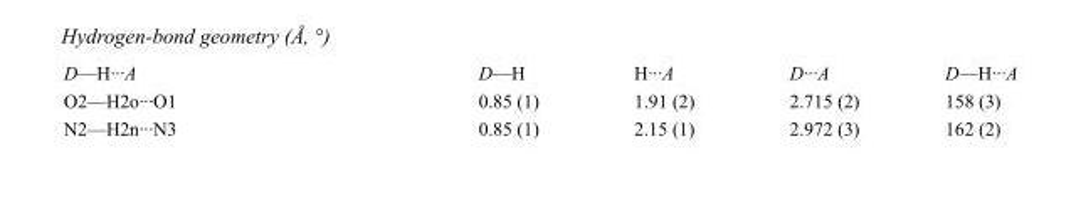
<table><tbody><tr><td>D—H···A</td><td>D—H</td><td>H···A</td><td>D···A</td><td>D—H···A</td></tr><tr><td>O2—H2o···O1</td><td>0.85 (1)</td><td>1.91 (2)</td><td>2.715 (2)</td><td>158 (3)</td></tr><tr><td>N2—H2n···N3</td><td>0.85 (1)</td><td>2.15 (1)</td><td>2.972 (3)</td><td>162 (2)</td></tr></tbody></table>